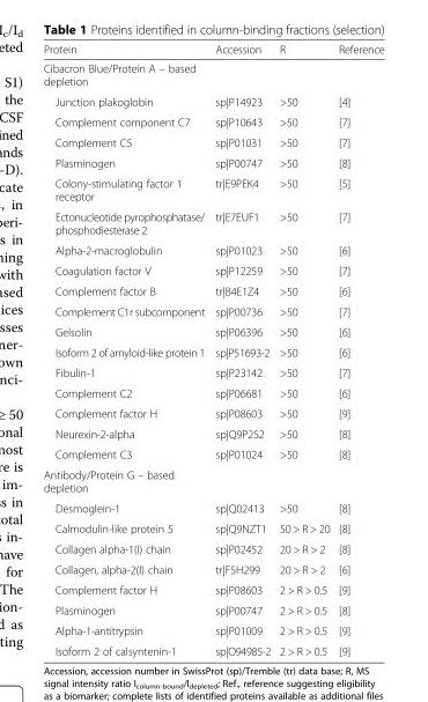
<table><thead><tr><td>Protein</td><td>Accession</td><td>R</td><td>Reference</td></tr></thead><tbody><tr><td colspan="4">Cibacron Blue/Protein A – based depletion</td></tr><tr><td>Junction plakoglobin</td><td>sp|P14923</td><td>&gt;50</td><td>[4]</td></tr><tr><td>Complement component C7</td><td>sp|P10643</td><td>&gt;50</td><td>[7]</td></tr><tr><td>Complement C5</td><td>sp|P01031</td><td>&gt;50</td><td>[7]</td></tr><tr><td>Plasminogen</td><td>sp|P00747</td><td>&gt;50</td><td>[8]</td></tr><tr><td>Colony-stimulating factor 1 receptor</td><td>tr|E9PEK4</td><td>&gt;50</td><td>[5]</td></tr><tr><td>Ectonucleotide pyrophosphatase/ phosphodiesterase 2</td><td>tr|E7EUF1</td><td>&gt;50</td><td>[7]</td></tr><tr><td>Alpha-2-macroglobulin</td><td>sp|P01023</td><td>&gt;50</td><td>[6]</td></tr><tr><td>Coagulation factor V</td><td>sp|P12259</td><td>&gt;50</td><td>[7]</td></tr><tr><td>Complement factor B</td><td>tr|B4E1Z4</td><td>&gt;50</td><td>[6]</td></tr><tr><td>Complement C1r subcomponent</td><td>sp|P00736</td><td>&gt;50</td><td>[7]</td></tr><tr><td>Gelsolin</td><td>sp|P06396</td><td>&gt;50</td><td>[6]</td></tr><tr><td>Isoform 2 of amyloid-like protein 1</td><td>sp|P51693-2</td><td>&gt;50</td><td>[6]</td></tr><tr><td>Fibulin-1</td><td>sp|P23142</td><td>&gt;50</td><td>[7]</td></tr><tr><td>Complement C2</td><td>sp|P06681</td><td>&gt;50</td><td>[6]</td></tr><tr><td>Complement factor H</td><td>sp|P08603</td><td>&gt;50</td><td>[9]</td></tr><tr><td>Neurexin-2-alpha</td><td>sp|Q9P2S2</td><td>&gt;50</td><td>[8]</td></tr><tr><td>Complement C3</td><td>sp|P01024</td><td>&gt;50</td><td>[8]</td></tr><tr><td colspan="4">Antibody/Protein G – based depletion</td></tr><tr><td>Desmoglein-1</td><td>sp|Q02413</td><td>&gt;50</td><td>[8]</td></tr><tr><td>Calmodulin-like protein 5</td><td>sp|Q9NZT1</td><td>50 &gt; R &gt; 20</td><td>[8]</td></tr><tr><td>Collagen alpha-1(I) chain</td><td>sp|P02452</td><td>20 &gt; R &gt; 2</td><td>[8]</td></tr><tr><td>Collagen, alpha-2(I) chain</td><td>tr|F5H299</td><td>20 &gt; R &gt; 2</td><td>[6]</td></tr><tr><td>Complement factor H</td><td>sp|P08603</td><td>2 &gt; R &gt; 0.5</td><td>[9]</td></tr><tr><td>Plasminogen</td><td>sp|P00747</td><td>2 &gt; R &gt; 0.5</td><td>[8]</td></tr><tr><td>Alpha-1-antitrypsin</td><td>sp|P01009</td><td>2 &gt; R &gt; 0.5</td><td>[9]</td></tr><tr><td>Isoform 2 of calsyntenin-1</td><td>sp|O94985-2</td><td>2 &gt; R &gt; 0.5</td><td>[9]</td></tr></tbody></table>